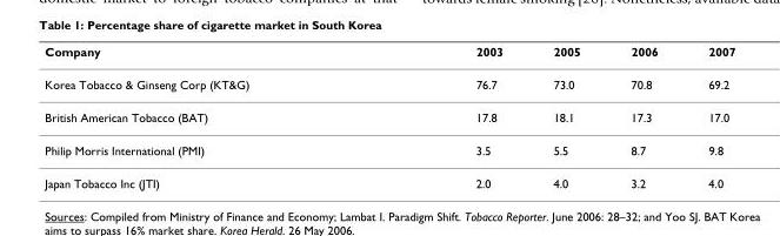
<table><thead><tr><td>Company</td><td>2003</td><td>2005</td><td>2006</td><td>2007</td></tr></thead><tbody><tr><td>Korea Tobacco &amp; Ginseng Corp (KT&amp;G)</td><td>76.7</td><td>73.0</td><td>70.8</td><td>69.2</td></tr><tr><td>British American Tobacco (BAT)</td><td>17.8</td><td>18.1</td><td>17.3</td><td>17.0</td></tr><tr><td>Philip Morris International (PMI)</td><td>3.5</td><td>5.5</td><td>8.7</td><td>9.8</td></tr><tr><td>Japan Tobacco Inc (JTI)</td><td>2.0</td><td>4.0</td><td>3.2</td><td>4.0</td></tr></tbody></table>